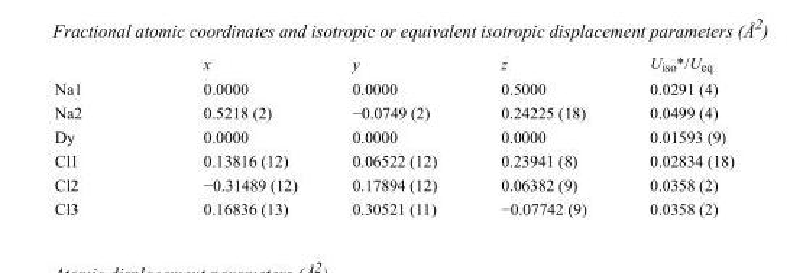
<table><thead><tr><td></td><td>x</td><td>y</td><td>z</td><td>U<sub>iso</sub>*/U<sub>eq</sub></td></tr></thead><tbody><tr><td>Na1</td><td>0.0000</td><td>0.0000</td><td>0.5000</td><td>0.0291 (4)</td></tr><tr><td>Na2</td><td>0.5218 (2)</td><td>−0.0749 (2)</td><td>0.24225 (18)</td><td>0.0499 (4)</td></tr><tr><td>Dy</td><td>0.0000</td><td>0.0000</td><td>0.0000</td><td>0.01593 (9)</td></tr><tr><td>Cl1</td><td>0.13816 (12)</td><td>0.06522 (12)</td><td>0.23941 (8)</td><td>0.02834 (18)</td></tr><tr><td>Cl2</td><td>−0.31489 (12)</td><td>0.17894 (12)</td><td>0.06382 (9)</td><td>0.0358 (2)</td></tr><tr><td>Cl3</td><td>0.16836 (13)</td><td>0.30521 (11)</td><td>−0.07742 (9)</td><td>0.0358 (2)</td></tr></tbody></table>